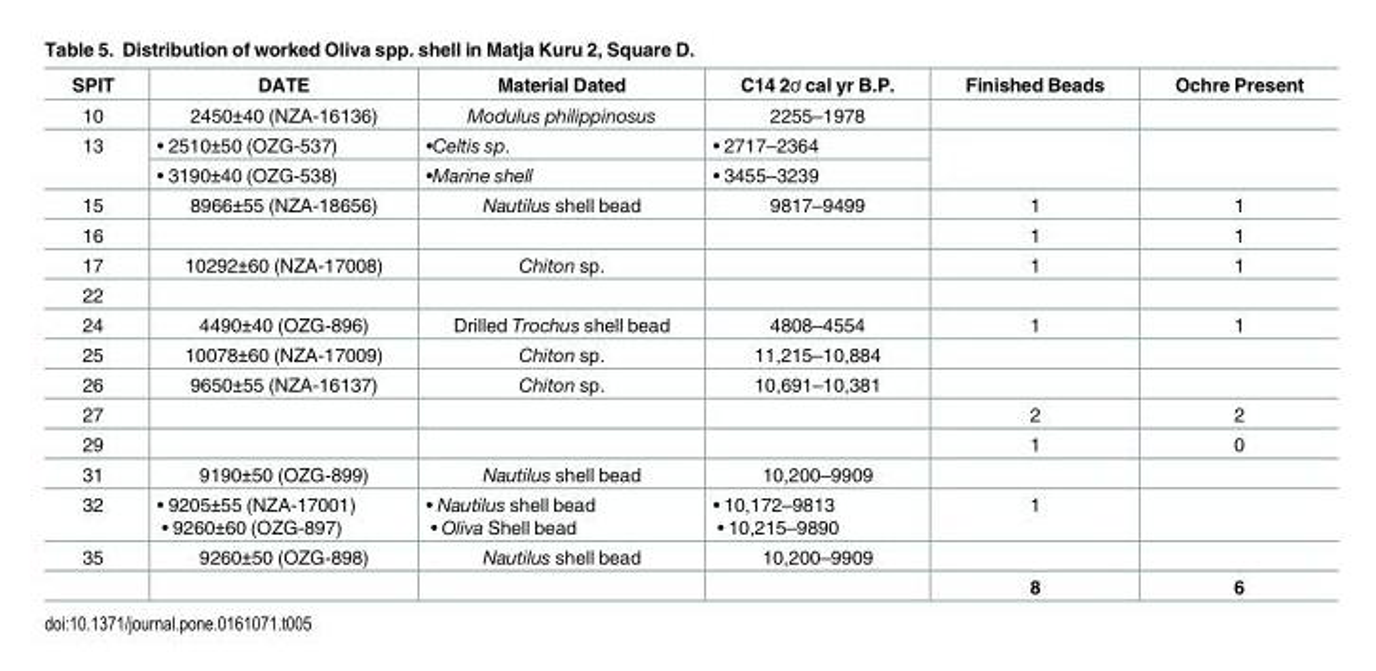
<table><thead><tr><td>SPIT</td><td>DATE</td><td>Material Dated</td><td>C14 2ơ cal yr B.P.</td><td>Finished Beads</td><td>Ochre Present</td></tr></thead><tbody><tr><td>10</td><td>2450±40 (NZA-16136)</td><td>Modulus philippinosus</td><td>2255–1978</td><td></td><td></td></tr><tr><td rowspan="2">13</td><td>• 2510±50 (OZG-537)</td><td>•Celtis sp.</td><td>• 2717–2364</td><td rowspan="2"></td><td rowspan="2"></td></tr><tr><td>• 3190±40 (OZG-538)</td><td>•Marine shell</td><td>• 3455–3239</td></tr><tr><td>15</td><td>8966±55 (NZA-18656)</td><td>Nautilus shell bead</td><td>9817–9499</td><td>1</td><td>1</td></tr><tr><td>16</td><td></td><td></td><td></td><td>1</td><td>1</td></tr><tr><td>17</td><td>10292±60 (NZA-17008)</td><td>Chiton sp.</td><td></td><td>1</td><td>1</td></tr><tr><td colspan="6">22</td></tr><tr><td>24</td><td>4490±40 (OZG-896)</td><td>Drilled Trochus shell bead</td><td>4808–4554</td><td>1</td><td>1</td></tr><tr><td>25</td><td>10078±60 (NZA-17009)</td><td>Chiton sp.</td><td>11,215–10,884</td><td></td><td></td></tr><tr><td>26</td><td>9650±55 (NZA-16137)</td><td>Chiton sp.</td><td>10,691–10,381</td><td></td><td></td></tr><tr><td>27</td><td></td><td></td><td></td><td>2</td><td>2</td></tr><tr><td>29</td><td></td><td></td><td></td><td>1</td><td>0</td></tr><tr><td>31</td><td>9190±50 (OZG-899)</td><td>Nautilus shell bead</td><td>10,200–9909</td><td></td><td></td></tr><tr><td>32</td><td>• 9205±55 (NZA-17001) • 9260±60 (OZG-897)</td><td>• Nautilus shell bead • Oliva Shell bead</td><td>• 10,172–9813 • 10,215–9890</td><td>1</td><td></td></tr><tr><td rowspan="2">35</td><td>9260±50 (OZG-898)</td><td>Nautilus shell bead</td><td>10,200–9909</td><td></td><td></td></tr><tr><td></td><td></td><td></td><td>8</td><td>6</td></tr></tbody></table>